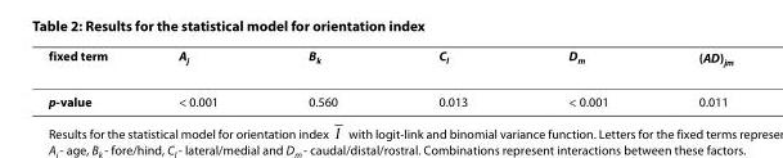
<table><thead><tr><td>fixed term</td><td>A<sub>j</sub></td><td>B<sub>k</sub></td><td>C<sub>l</sub></td><td>D<sub>m</sub></td><td>(AD)<sub>jm</sub></td></tr></thead><tbody><tr><td>p-value</td><td>&lt; 0.001</td><td>0.560</td><td>0.013</td><td>&lt; 0.001</td><td>0.011</td></tr></tbody></table>